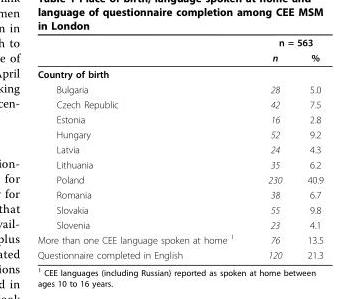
<table><thead><tr><td rowspan="2"></td><td colspan="2">n = 563</td></tr><tr><td>n</td><td>%</td></tr></thead><tbody><tr><td colspan="3">Country of birth</td></tr><tr><td>Bulgaria</td><td>28</td><td>5.0</td></tr><tr><td>Czech Republic</td><td>42</td><td>7.5</td></tr><tr><td>Estonia</td><td>16</td><td>2.8</td></tr><tr><td>Hungary</td><td>52</td><td>9.2</td></tr><tr><td>Latvia</td><td>24</td><td>4.3</td></tr><tr><td>Lithuania</td><td>35</td><td>6.2</td></tr><tr><td>Poland</td><td>230</td><td>40.9</td></tr><tr><td>Romania</td><td>38</td><td>6.7</td></tr><tr><td>Slovakia</td><td>55</td><td>9.8</td></tr><tr><td>Slovenia</td><td>23</td><td>4.1</td></tr><tr><td>More than one CEE language spoken at home <sup>1</sup></td><td>76</td><td>13.5</td></tr><tr><td>Questionnaire completed in English</td><td>120</td><td>21.3</td></tr></tbody></table>